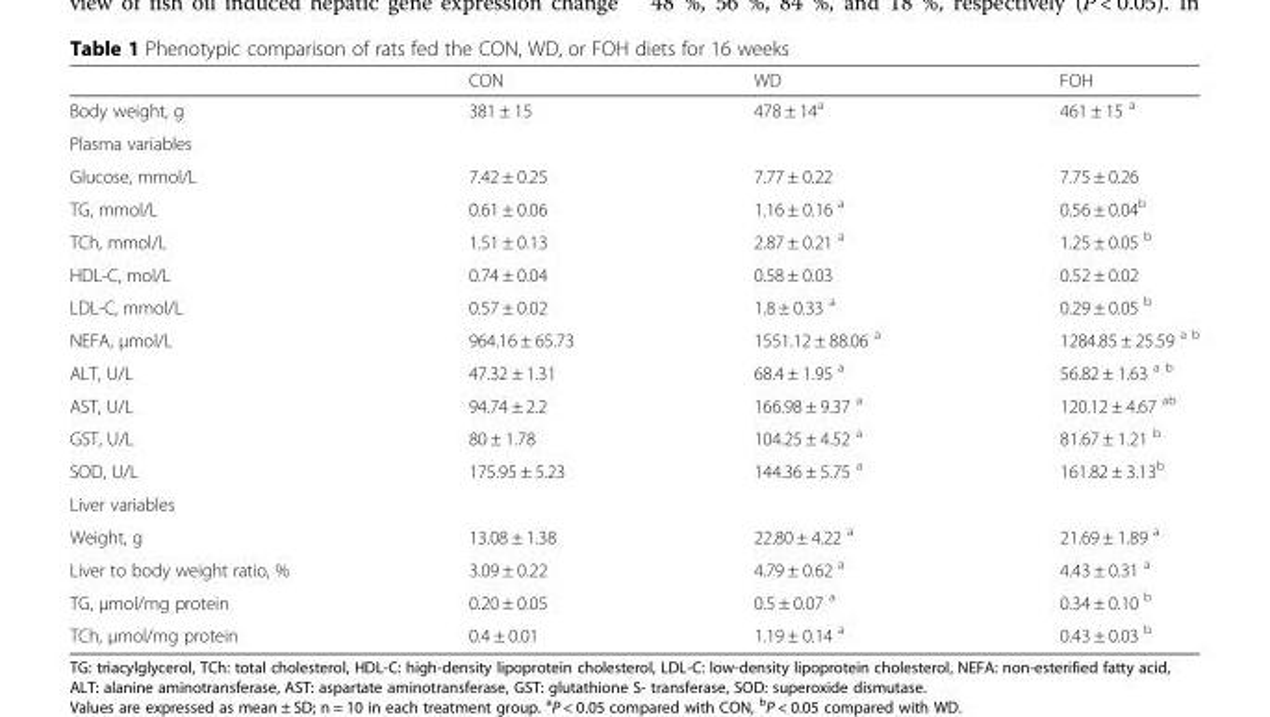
<table><thead><tr><td></td><td>CON</td><td>WD</td><td>FOH</td></tr></thead><tbody><tr><td>Body weight, g</td><td>381 ± 15</td><td>478 ± 14<sup>a</sup></td><td>461 ± 15 <sup>a</sup></td></tr><tr><td colspan="4">Plasma variables</td></tr><tr><td>Glucose, mmol/L</td><td>7.42 ± 0.25</td><td>7.77 ± 0.22</td><td>7.75 ± 0.26</td></tr><tr><td>TG, mmol/L</td><td>0.61 ± 0.06</td><td>1.16 ± 0.16 <sup>a</sup></td><td>0.56 ± 0.04<sup>b</sup></td></tr><tr><td>TCh, mmol/L</td><td>1.51 ± 0.13</td><td>2.87 ± 0.21 <sup>a</sup></td><td>1.25 ± 0.05 <sup>b</sup></td></tr><tr><td>HDL-C, mol/L</td><td>0.74 ± 0.04</td><td>0.58 ± 0.03</td><td>0.52 ± 0.02</td></tr><tr><td>LDL-C, mmol/L</td><td>0.57 ± 0.02</td><td>1.8 ± 0.33 <sup>a</sup></td><td>0.29 ± 0.05 <sup>b</sup></td></tr><tr><td>NEFA, μmol/L</td><td>964.16 ± 65.73</td><td>1551.12 ± 88.06 <sup>a</sup></td><td>1284.85 ± 25.59 <sup>a b</sup></td></tr><tr><td>ALT, U/L</td><td>47.32 ± 1.31</td><td>68.4 ± 1.95 <sup>a</sup></td><td>56.82 ± 1.63 <sup>a b</sup></td></tr><tr><td>AST, U/L</td><td>94.74 ± 2.2</td><td>166.98 ± 9.37 <sup>a</sup></td><td>120.12 ± 4.67 <sup>ab</sup></td></tr><tr><td>GST, U/L</td><td>80 ± 1.78</td><td>104.25 ± 4.52 <sup>a</sup></td><td>81.67 ± 1.21 <sup>b</sup></td></tr><tr><td>SOD, U/L</td><td>175.95 ± 5.23</td><td>144.36 ± 5.75 <sup>a</sup></td><td>161.82 ± 3.13<sup>b</sup></td></tr><tr><td colspan="4">Liver variables</td></tr><tr><td>Weight, g</td><td>13.08 ± 1.38</td><td>22.80 ± 4.22 <sup>a</sup></td><td>21.69 ± 1.89 <sup>a</sup></td></tr><tr><td>Liver to body weight ratio, %</td><td>3.09 ± 0.22</td><td>4.79 ± 0.62 <sup>a</sup></td><td>4.43 ± 0.31 <sup>a</sup></td></tr><tr><td>TG, μmol/mg protein</td><td>0.20 ± 0.05</td><td>0.5 ± 0.07 <sup>a</sup></td><td>0.34 ± 0.10 <sup>b</sup></td></tr><tr><td>TCh, μmol/mg protein</td><td>0.4 ± 0.01</td><td>1.19 ± 0.14 <sup>a</sup></td><td>0.43 ± 0.03 <sup>b</sup></td></tr></tbody></table>